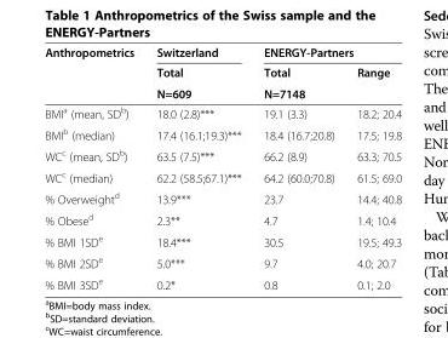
<table><thead><tr><td rowspan="2">Anthropometrics</td><td rowspan="2">Switzerland Total</td><td colspan="2">ENERGY-Partners</td></tr><tr><td>Total</td><td>Range</td></tr></thead><tbody><tr><td></td><td>N=609</td><td>N=7148</td><td></td></tr><tr><td>BMI<sup>a</sup> (mean, SD<sup>b</sup>)</td><td>18.0 (2.8)***</td><td>19.1 (3.3)</td><td>18.2; 20.4</td></tr><tr><td>BMI<sup>b</sup> (median)</td><td>17.4 (16.1;19.3)***</td><td>18.4 (16.7;20.8)</td><td>17.5; 19.8</td></tr><tr><td>WC<sup>c</sup> (mean, SD<sup>b</sup>)</td><td>63.5 (7.5)***</td><td>66.2 (8.9)</td><td>63.3; 70.5</td></tr><tr><td>WC<sup>c</sup> (median)</td><td>62.2 (58.5;67.1)***</td><td>64.2 (60.0;70.8)</td><td>61.5; 69.0</td></tr><tr><td>% Overweight<sup>d</sup></td><td>13.9***</td><td>23.7</td><td>14.4; 40.8</td></tr><tr><td>% Obese<sup>d</sup></td><td>2.3**</td><td>4.7</td><td>1.4; 10.4</td></tr><tr><td>% BMI 1SD<sup>e</sup></td><td>18.4***</td><td>30.5</td><td>19.5; 49.3</td></tr><tr><td>% BMI 2SD<sup>e</sup></td><td>5.0***</td><td>9.7</td><td>4.0; 20.7</td></tr><tr><td>% BMI 3SD<sup>e</sup></td><td>0.2*</td><td>0.8</td><td>0.1; 2.0</td></tr></tbody></table>